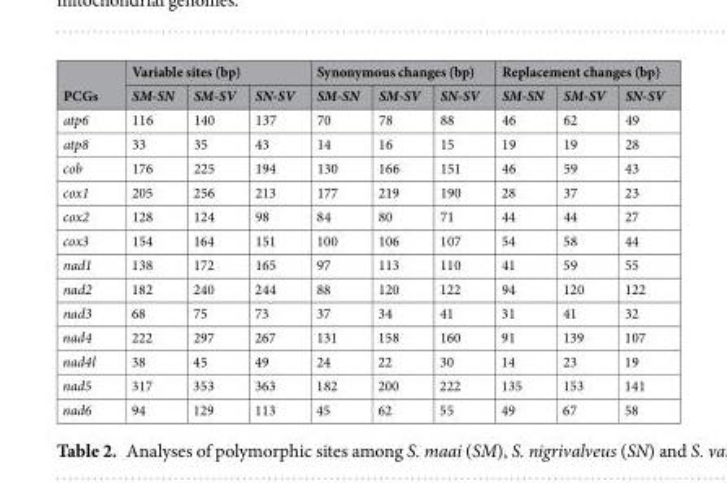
<table><thead><tr><td rowspan="2">PCGs</td><td colspan="3">Variable sites (bp)</td><td colspan="3">Synonymous changes (bp)</td><td colspan="3">Replacement changes (bp)</td></tr><tr><td>SM-SN</td><td>SM-SV</td><td>SN-SV</td><td>SM-SN</td><td>SM-SV</td><td>SN-SV</td><td>SM-SN</td><td>SM-SV</td><td>SN-SV</td></tr></thead><tbody><tr><td>atp6</td><td>116</td><td>140</td><td>137</td><td>70</td><td>78</td><td>88</td><td>46</td><td>62</td><td>49</td></tr><tr><td>atp8</td><td>33</td><td>35</td><td>43</td><td>14</td><td>16</td><td>15</td><td>19</td><td>19</td><td>28</td></tr><tr><td>cob</td><td>176</td><td>225</td><td>194</td><td>130</td><td>166</td><td>151</td><td>46</td><td>59</td><td>43</td></tr><tr><td>cox1</td><td>205</td><td>256</td><td>213</td><td>177</td><td>219</td><td>190</td><td>28</td><td>37</td><td>23</td></tr><tr><td>cox2</td><td>128</td><td>124</td><td>98</td><td>84</td><td>80</td><td>71</td><td>44</td><td>44</td><td>27</td></tr><tr><td>cox3</td><td>154</td><td>164</td><td>151</td><td>100</td><td>106</td><td>107</td><td>54</td><td>58</td><td>44</td></tr><tr><td>nad1</td><td>138</td><td>172</td><td>165</td><td>97</td><td>113</td><td>110</td><td>41</td><td>59</td><td>55</td></tr><tr><td>nad2</td><td>182</td><td>240</td><td>244</td><td>88</td><td>120</td><td>122</td><td>94</td><td>120</td><td>122</td></tr><tr><td>nad3</td><td>68</td><td>75</td><td>73</td><td>37</td><td>34</td><td>41</td><td>31</td><td>41</td><td>32</td></tr><tr><td>nad4</td><td>222</td><td>297</td><td>267</td><td>131</td><td>158</td><td>160</td><td>91</td><td>139</td><td>107</td></tr><tr><td>nad4l</td><td>38</td><td>45</td><td>49</td><td>24</td><td>22</td><td>30</td><td>14</td><td>23</td><td>19</td></tr><tr><td>nad5</td><td>317</td><td>353</td><td>363</td><td>182</td><td>200</td><td>222</td><td>135</td><td>153</td><td>141</td></tr><tr><td>nad6</td><td>94</td><td>129</td><td>113</td><td>45</td><td>62</td><td>55</td><td>49</td><td>67</td><td>58</td></tr></tbody></table>